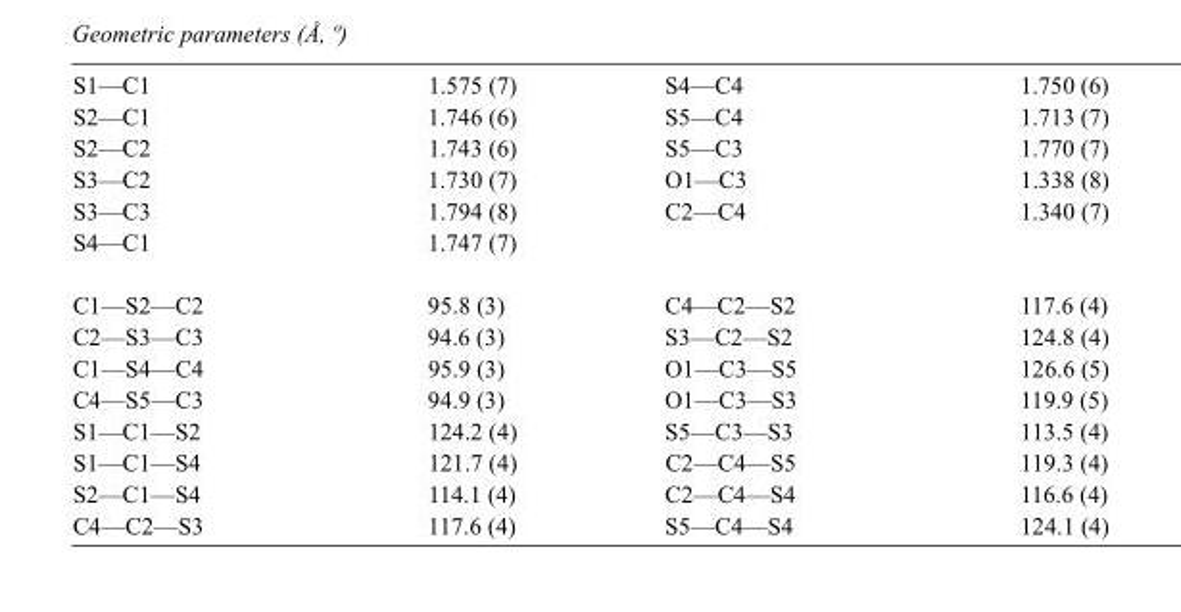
<table><tbody><tr><td>S1—C1</td><td>1.575 (7)</td><td>S4—C4</td><td>1.750 (6)</td></tr><tr><td>S2—C1</td><td>1.746 (6)</td><td>S5—C4</td><td>1.713 (7)</td></tr><tr><td>S2—C2</td><td>1.743 (6)</td><td>S5—C3</td><td>1.770 (7)</td></tr><tr><td>S3—C2</td><td>1.730 (7)</td><td>O1—C3</td><td>1.338 (8)</td></tr><tr><td>S3—C3</td><td>1.794 (8)</td><td>C2—C4</td><td>1.340 (7)</td></tr><tr><td>S4—C1</td><td>1.747 (7)</td><td></td><td></td></tr><tr><td>C1—S2—C2</td><td>95.8 (3)</td><td>C4—C2—S2</td><td>117.6 (4)</td></tr><tr><td>C2—S3—C3</td><td>94.6 (3)</td><td>S3—C2—S2</td><td>124.8 (4)</td></tr><tr><td>C1—S4—C4</td><td>95.9 (3)</td><td>O1—C3—S5</td><td>126.6 (5)</td></tr><tr><td>C4—S5—C3</td><td>94.9 (3)</td><td>O1—C3—S3</td><td>119.9 (5)</td></tr><tr><td>S1—C1—S2</td><td>124.2 (4)</td><td>S5—C3—S3</td><td>113.5 (4)</td></tr><tr><td>S1—C1—S4</td><td>121.7 (4)</td><td>C2—C4—S5</td><td>119.3 (4)</td></tr><tr><td>S2—C1—S4</td><td>114.1 (4)</td><td>C2—C4—S4</td><td>116.6 (4)</td></tr><tr><td>C4—C2—S3</td><td>117.6 (4)</td><td>S5—C4—S4</td><td>124.1 (4)</td></tr></tbody></table>